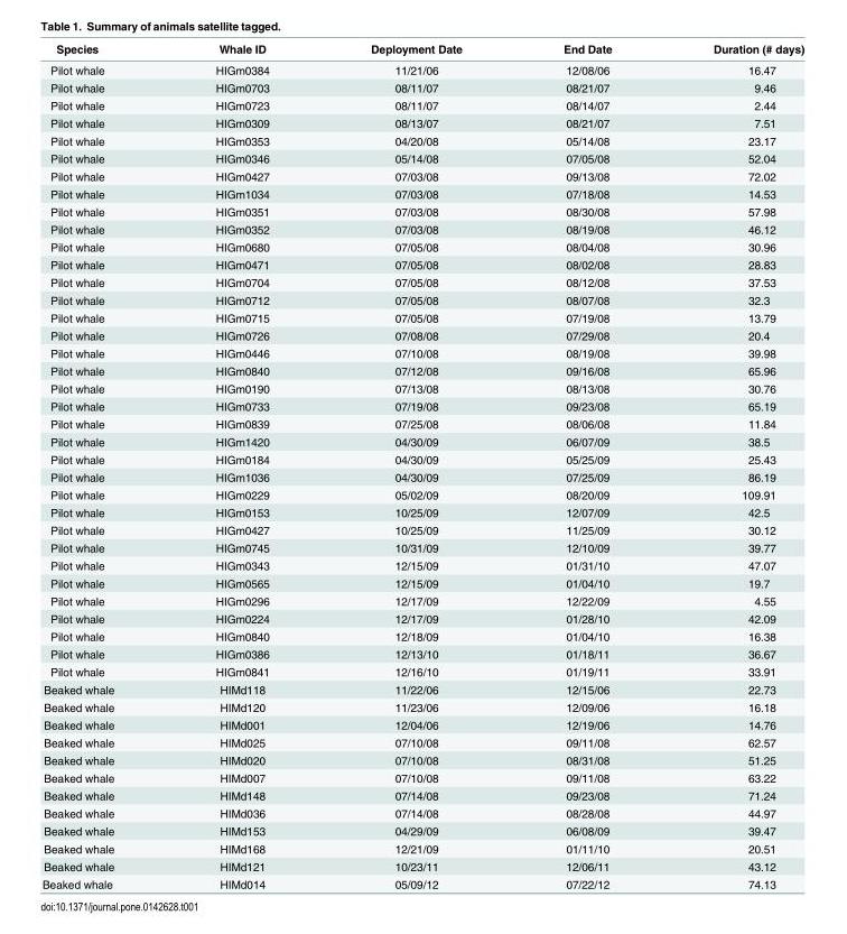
<table><thead><tr><td>Species</td><td>Whale ID</td><td>Deployment Date</td><td>End Date</td><td>Duration (# days)</td></tr></thead><tbody><tr><td>Pilot whale</td><td>HIGm0384</td><td>11/21/06</td><td>12/08/06</td><td>16.47</td></tr><tr><td>Pilot whale</td><td>HIGm0703</td><td>08/11/07</td><td>08/21/07</td><td>9.46</td></tr><tr><td>Pilot whale</td><td>HIGm0723</td><td>08/11/07</td><td>08/14/07</td><td>2.44</td></tr><tr><td>Pilot whale</td><td>HIGm0309</td><td>08/13/07</td><td>08/21/07</td><td>7.51</td></tr><tr><td>Pilot whale</td><td>HIGm0353</td><td>04/20/08</td><td>05/14/08</td><td>23.17</td></tr><tr><td>Pilot whale</td><td>HIGm0346</td><td>05/14/08</td><td>07/05/08</td><td>52.04</td></tr><tr><td>Pilot whale</td><td>HIGm0427</td><td>07/03/08</td><td>09/13/08</td><td>72.02</td></tr><tr><td>Pilot whale</td><td>HIGm1034</td><td>07/03/08</td><td>07/18/08</td><td>14.53</td></tr><tr><td>Pilot whale</td><td>HIGm0351</td><td>07/03/08</td><td>08/30/08</td><td>57.98</td></tr><tr><td>Pilot whale</td><td>HIGm0352</td><td>07/03/08</td><td>08/19/08</td><td>46.12</td></tr><tr><td>Pilot whale</td><td>HIGm0680</td><td>07/05/08</td><td>08/04/08</td><td>30.96</td></tr><tr><td>Pilot whale</td><td>HIGm0471</td><td>07/05/08</td><td>08/02/08</td><td>28.83</td></tr><tr><td>Pilot whale</td><td>HIGm0704</td><td>07/05/08</td><td>08/12/08</td><td>37.53</td></tr><tr><td>Pilot whale</td><td>HIGm0712</td><td>07/05/08</td><td>08/07/08</td><td>32.3</td></tr><tr><td>Pilot whale</td><td>HIGm0715</td><td>07/05/08</td><td>07/19/08</td><td>13.79</td></tr><tr><td>Pilot whale</td><td>HIGm0726</td><td>07/08/08</td><td>07/29/08</td><td>20.4</td></tr><tr><td>Pilot whale</td><td>HIGm0446</td><td>07/10/08</td><td>08/19/08</td><td>39.98</td></tr><tr><td>Pilot whale</td><td>HIGm0840</td><td>07/12/08</td><td>09/16/08</td><td>65.96</td></tr><tr><td>Pilot whale</td><td>HIGm0190</td><td>07/13/08</td><td>08/13/08</td><td>30.76</td></tr><tr><td>Pilot whale</td><td>HIGm0733</td><td>07/19/08</td><td>09/23/08</td><td>65.19</td></tr><tr><td>Pilot whale</td><td>HIGm0839</td><td>07/25/08</td><td>08/06/08</td><td>11.84</td></tr><tr><td>Pilot whale</td><td>HIGm1420</td><td>04/30/09</td><td>06/07/09</td><td>38.5</td></tr><tr><td>Pilot whale</td><td>HIGm0184</td><td>04/30/09</td><td>05/25/09</td><td>25.43</td></tr><tr><td>Pilot whale</td><td>HIGm1036</td><td>04/30/09</td><td>07/25/09</td><td>86.19</td></tr><tr><td>Pilot whale</td><td>HIGm0229</td><td>05/02/09</td><td>08/20/09</td><td>109.91</td></tr><tr><td>Pilot whale</td><td>HIGm0153</td><td>10/25/09</td><td>12/07/09</td><td>42.5</td></tr><tr><td>Pilot whale</td><td>HIGm0427</td><td>10/25/09</td><td>11/25/09</td><td>30.12</td></tr><tr><td>Pilot whale</td><td>HIGm0745</td><td>10/31/09</td><td>12/10/09</td><td>39.77</td></tr><tr><td>Pilot whale</td><td>HIGm0343</td><td>12/15/09</td><td>01/31/10</td><td>47.07</td></tr><tr><td>Pilot whale</td><td>HIGm0565</td><td>12/15/09</td><td>01/04/10</td><td>19.7</td></tr><tr><td>Pilot whale</td><td>HIGm0296</td><td>12/17/09</td><td>12/22/09</td><td>4.55</td></tr><tr><td>Pilot whale</td><td>HIGm0224</td><td>12/17/09</td><td>01/28/10</td><td>42.09</td></tr><tr><td>Pilot whale</td><td>HIGm0840</td><td>12/18/09</td><td>01/04/10</td><td>16.38</td></tr><tr><td>Pilot whale</td><td>HIGm0386</td><td>12/13/10</td><td>01/18/11</td><td>36.67</td></tr><tr><td>Pilot whale</td><td>HIGm0841</td><td>12/16/10</td><td>01/19/11</td><td>33.91</td></tr><tr><td>Beaked whale</td><td>HIMd118</td><td>11/22/06</td><td>12/15/06</td><td>22.73</td></tr><tr><td>Beaked whale</td><td>HIMd120</td><td>11/23/06</td><td>12/09/06</td><td>16.18</td></tr><tr><td>Beaked whale</td><td>HIMd001</td><td>12/04/06</td><td>12/19/06</td><td>14.76</td></tr><tr><td>Beaked whale</td><td>HIMd025</td><td>07/10/08</td><td>09/11/08</td><td>62.57</td></tr><tr><td>Beaked whale</td><td>HIMd020</td><td>07/10/08</td><td>08/31/08</td><td>51.25</td></tr><tr><td>Beaked whale</td><td>HIMd007</td><td>07/10/08</td><td>09/11/08</td><td>63.22</td></tr><tr><td>Beaked whale</td><td>HIMd148</td><td>07/14/08</td><td>09/23/08</td><td>71.24</td></tr><tr><td>Beaked whale</td><td>HIMd036</td><td>07/14/08</td><td>08/28/08</td><td>44.97</td></tr><tr><td>Beaked whale</td><td>HIMd153</td><td>04/29/09</td><td>06/08/09</td><td>39.47</td></tr><tr><td>Beaked whale</td><td>HIMd168</td><td>12/21/09</td><td>01/11/10</td><td>20.51</td></tr><tr><td>Beaked whale</td><td>HIMd121</td><td>10/23/11</td><td>12/06/11</td><td>43.12</td></tr><tr><td>Beaked whale</td><td>HIMd014</td><td>05/09/12</td><td>07/22/12</td><td>74.13</td></tr></tbody></table>